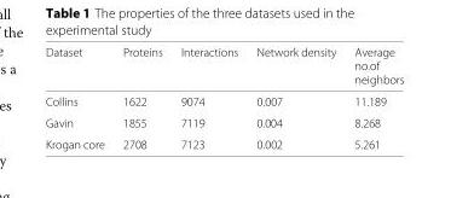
<table><thead><tr><td>Dataset</td><td>Proteins</td><td>Interactions</td><td>Network density</td><td>Average no.of neighbors</td></tr></thead><tbody><tr><td>Collins</td><td>1622</td><td>9074</td><td>0.007</td><td>11.189</td></tr><tr><td>Gavin</td><td>1855</td><td>7119</td><td>0.004</td><td>8.268</td></tr><tr><td>Krogan core</td><td>2708</td><td>7123</td><td>0.002</td><td>5.261</td></tr></tbody></table>